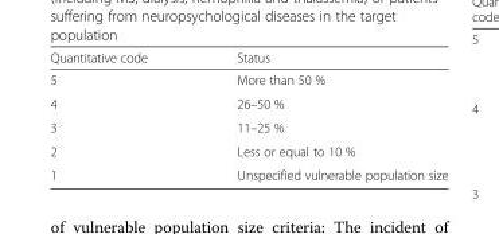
<table><thead><tr><td>Quantitative code</td><td>Status</td></tr></thead><tbody><tr><td>5</td><td>More than 50 %</td></tr><tr><td>4</td><td>26–50 %</td></tr><tr><td>3</td><td>11–25 %</td></tr><tr><td>2</td><td>Less or equal to 10 %</td></tr><tr><td>1</td><td>Unspecified vulnerable population size</td></tr></tbody></table>